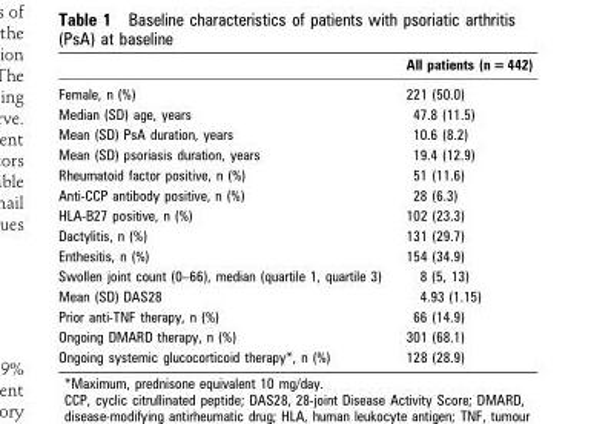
<table><thead><tr><td></td><td>All patients (n = 442)</td></tr></thead><tbody><tr><td>Female, n (%)</td><td>221 (50.0)</td></tr><tr><td>Median (SD) age, years</td><td>47.8 (11.5)</td></tr><tr><td>Mean (SD) PsA duration, years</td><td>10.6 (8.2)</td></tr><tr><td>Mean (SD) psoriasis duration, years</td><td>19.4 (12.9)</td></tr><tr><td>Rheumatoid factor positive, n (%)</td><td>51 (11.6)</td></tr><tr><td>Anti-CCP antibody positive, n (%)</td><td>28 (6.3)</td></tr><tr><td>HLA-B27 positive, n (%)</td><td>102 (23.3)</td></tr><tr><td>Dactylitis, n (%)</td><td>131 (29.7)</td></tr><tr><td>Enthesitis, n (%)</td><td>154 (34.9)</td></tr><tr><td>Swollen joint count (0–66), median (quartile 1, quartile 3)</td><td>8 (5, 13)</td></tr><tr><td>Mean (SD) DAS28</td><td>4.93 (1.15)</td></tr><tr><td>Prior anti-TNF therapy, n (%)</td><td>66 (14.9)</td></tr><tr><td>Ongoing DMARD therapy, n (%)</td><td>301 (68.1)</td></tr><tr><td>Ongoing systemic glucocorticoid therapy*, n (%)</td><td>128 (28.9)</td></tr></tbody></table>